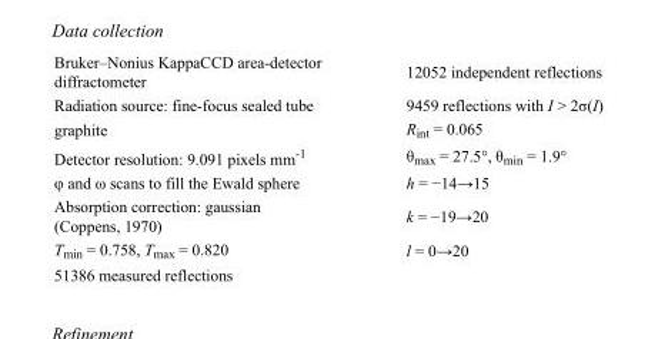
<table><tbody><tr><td>Bruker–Nonius KappaCCD area-detector diffractometer</td><td>12052 independent reflections</td></tr><tr><td>Radiation source: fine-focus sealed tube</td><td>9459 reflections with I &gt; 2σ(I)</td></tr><tr><td>graphite</td><td>R<sub>int</sub> = 0.065</td></tr><tr><td>Detector resolution: 9.091 pixels mm<sup>-1</sup></td><td>θ<sub>max</sub> = 27.5°, θ<sub>min</sub> = 1.9°</td></tr><tr><td>φ and ω scans to fill the Ewald sphere</td><td>h = −14→15</td></tr><tr><td>Absorption correction: gaussian (Coppens, 1970)</td><td>k = −19→20</td></tr><tr><td>T<sub>min</sub> = 0.758, T<sub>max</sub> = 0.820</td><td>l = 0→20</td></tr><tr><td>51386 measured reflections</td><td></td></tr></tbody></table>